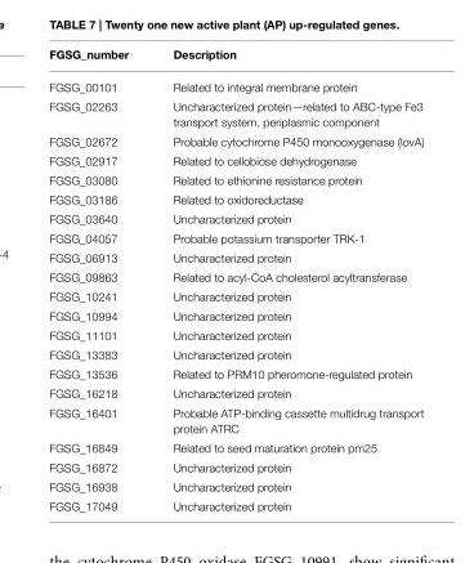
<table><thead><tr><td>FGSG_number</td><td>Description</td></tr></thead><tbody><tr><td>FGSG_00101</td><td>Related to integral membrane protein</td></tr><tr><td>FGSG_02263</td><td>Uncharacterized protein—related to ABC-type Fe3 transport system, periplasmic component</td></tr><tr><td>FGSG_02672</td><td>Probable cytochrome P450 monooxygenase (lovA)</td></tr><tr><td>FGSG_02917</td><td>Related to cellobiose dehydrogenase</td></tr><tr><td>FGSG_03080</td><td>Related to ethionine resistance protein</td></tr><tr><td>FGSG_03186</td><td>Related to oxidoreductase</td></tr><tr><td>FGSG_03640</td><td>Uncharacterized protein</td></tr><tr><td>FGSG_04057</td><td>Probable potassium transporter TRK-1</td></tr><tr><td>FGSG_06913</td><td>Uncharacterized protein</td></tr><tr><td>FGSG_09863</td><td>Related to acyl-CoA cholesterol acyltransferase</td></tr><tr><td>FGSG_10241</td><td>Uncharacterized protein</td></tr><tr><td>FGSG_10994</td><td>Uncharacterized protein</td></tr><tr><td>FGSG_11101</td><td>Uncharacterized protein</td></tr><tr><td>FGSG_13383</td><td>Uncharacterized protein</td></tr><tr><td>FGSG_13536</td><td>Related to PRM10 pheromone-regulated protein</td></tr><tr><td>FGSG_16218</td><td>Uncharacterized protein</td></tr><tr><td>FGSG_16401</td><td>Probable ATP-binding cassette multidrug transport protein ATRC</td></tr><tr><td>FGSG_16849</td><td>Related to seed maturation protein pm25</td></tr><tr><td>FGSG_16872</td><td>Uncharacterized protein</td></tr><tr><td>FGSG_16938</td><td>Uncharacterized protein</td></tr><tr><td>FGSG_17049</td><td>Uncharacterized protein</td></tr></tbody></table>